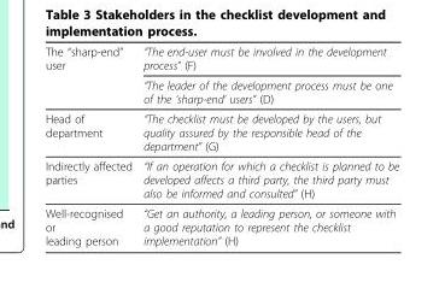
<table><thead><tr><td rowspan="2">The “sharp-end” user</td><td rowspan="2">“The end-user must be involved in the development process” (F) “The leader of the development process must be one of the ‘sharp-end’ users” (D)</td></tr><tr></tr></thead><tbody><tr><td>Head of department</td><td>“The checklist must be developed by the users, but quality assured by the responsible head of the department” (G)</td></tr><tr><td>Indirectly affected parties</td><td>“If an operation for which a checklist is planned to be developed affects a third party, the third party must also be informed and consulted” (H)</td></tr><tr><td>Well-recognised or leading person</td><td>“Get an authority, a leading person, or someone with a good reputation to represent the checklist implementation” (H)</td></tr></tbody></table>